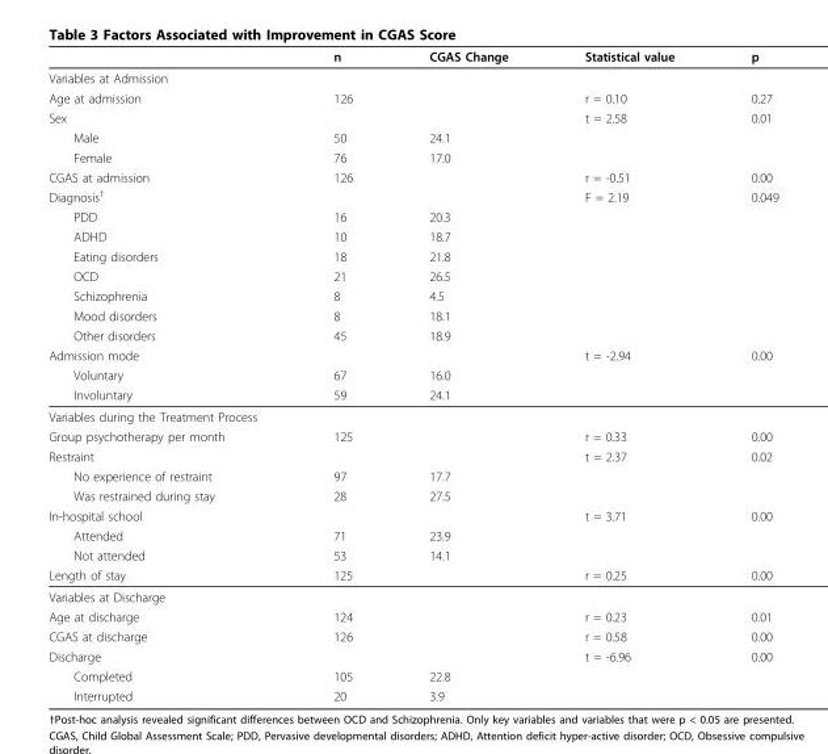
<table><thead><tr><td></td><td>n</td><td>CGAS Change</td><td>Statistical value</td><td>p</td></tr></thead><tbody><tr><td colspan="5">Variables at Admission</td></tr><tr><td>Age at admission</td><td>126</td><td></td><td>r = 0.10</td><td>0.27</td></tr><tr><td>Sex</td><td></td><td></td><td>t = 2.58</td><td>0.01</td></tr><tr><td>Male</td><td>50</td><td>24.1</td><td></td><td></td></tr><tr><td>Female</td><td>76</td><td>17.0</td><td></td><td></td></tr><tr><td>CGAS at admission</td><td>126</td><td></td><td>r = -0.51</td><td>0.00</td></tr><tr><td>Diagnosis<sup>†</sup></td><td></td><td></td><td>F = 2.19</td><td>0.049</td></tr><tr><td>PDD</td><td>16</td><td>20.3</td><td></td><td></td></tr><tr><td>ADHD</td><td>10</td><td>18.7</td><td></td><td></td></tr><tr><td>Eating disorders</td><td>18</td><td>21.8</td><td></td><td></td></tr><tr><td>OCD</td><td>21</td><td>26.5</td><td></td><td></td></tr><tr><td>Schizophrenia</td><td>8</td><td>4.5</td><td></td><td></td></tr><tr><td>Mood disorders</td><td>8</td><td>18.1</td><td></td><td></td></tr><tr><td>Other disorders</td><td>45</td><td>18.9</td><td></td><td></td></tr><tr><td>Admission mode</td><td></td><td></td><td>t = -2.94</td><td>0.00</td></tr><tr><td>Voluntary</td><td>67</td><td>16.0</td><td></td><td></td></tr><tr><td>Involuntary</td><td>59</td><td>24.1</td><td></td><td></td></tr><tr><td colspan="5">Variables during the Treatment Process</td></tr><tr><td>Group psychotherapy per month</td><td>125</td><td></td><td>r = 0.33</td><td>0.00</td></tr><tr><td>Restraint</td><td></td><td></td><td>t = 2.37</td><td>0.02</td></tr><tr><td>No experience of restraint</td><td>97</td><td>17.7</td><td></td><td></td></tr><tr><td>Was restrained during stay</td><td>28</td><td>27.5</td><td></td><td></td></tr><tr><td>In-hospital school</td><td></td><td></td><td>t = 3.71</td><td>0.00</td></tr><tr><td>Attended</td><td>71</td><td>23.9</td><td></td><td></td></tr><tr><td>Not attended</td><td>53</td><td>14.1</td><td></td><td></td></tr><tr><td>Length of stay</td><td>125</td><td></td><td>r = 0.25</td><td>0.00</td></tr><tr><td colspan="5">Variables at Discharge</td></tr><tr><td>Age at discharge</td><td>124</td><td></td><td>r = 0.23</td><td>0.01</td></tr><tr><td>CGAS at discharge</td><td>126</td><td></td><td>r = 0.58</td><td>0.00</td></tr><tr><td>Discharge</td><td></td><td></td><td>t = -6.96</td><td>0.00</td></tr><tr><td>Completed</td><td>105</td><td>22.8</td><td></td><td></td></tr><tr><td>Interrupted</td><td>20</td><td>3.9</td><td></td><td></td></tr></tbody></table>